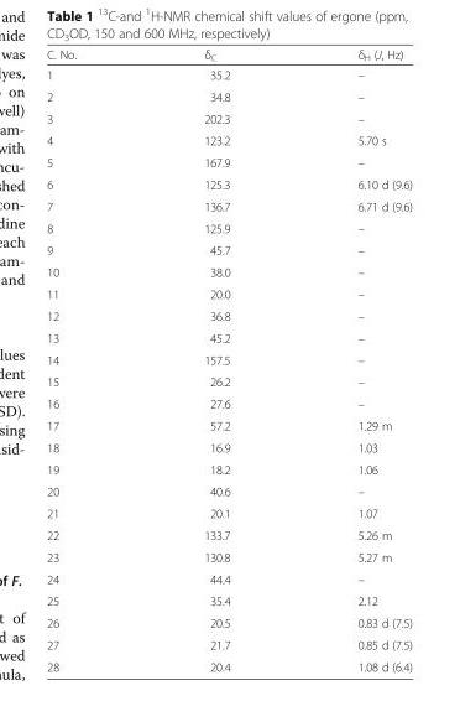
<table><thead><tr><td>C. No.</td><td>δ<sub>C</sub></td><td>δ<sub>H</sub> (J, Hz)</td></tr></thead><tbody><tr><td>1</td><td>35.2</td><td>–</td></tr><tr><td>2</td><td>34.8</td><td>–</td></tr><tr><td>3</td><td>202.3</td><td>–</td></tr><tr><td>4</td><td>123.2</td><td>5.70 s</td></tr><tr><td>5</td><td>167.9</td><td>–</td></tr><tr><td>6</td><td>125.3</td><td>6.10 d (9.6)</td></tr><tr><td>7</td><td>136.7</td><td>6.71 d (9.6)</td></tr><tr><td>8</td><td>125.9</td><td>–</td></tr><tr><td>9</td><td>45.7</td><td>–</td></tr><tr><td>10</td><td>38.0</td><td>–</td></tr><tr><td>11</td><td>20.0</td><td>–</td></tr><tr><td>12</td><td>36.8</td><td>–</td></tr><tr><td>13</td><td>45.2</td><td>–</td></tr><tr><td>14</td><td>157.5</td><td>–</td></tr><tr><td>15</td><td>26.2</td><td>–</td></tr><tr><td>16</td><td>27.6</td><td>–</td></tr><tr><td>17</td><td>57.2</td><td>1.29 m</td></tr><tr><td>18</td><td>16.9</td><td>1.03</td></tr><tr><td>19</td><td>18.2</td><td>1.06</td></tr><tr><td>20</td><td>40.6</td><td>–</td></tr><tr><td>21</td><td>20.1</td><td>1.07</td></tr><tr><td>22</td><td>133.7</td><td>5.26 m</td></tr><tr><td>23</td><td>130.8</td><td>5.27 m</td></tr><tr><td>24</td><td>44.4</td><td>–</td></tr><tr><td>25</td><td>35.4</td><td>2.12</td></tr><tr><td>26</td><td>20.5</td><td>0.83 d (7.5)</td></tr><tr><td>27</td><td>21.7</td><td>0.85 d (7.5)</td></tr><tr><td>28</td><td>20.4</td><td>1.08 d (6.4)</td></tr></tbody></table>